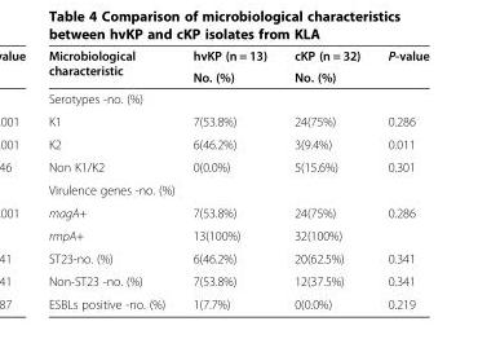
<table><thead><tr><td rowspan="2">Microbiological characteristic</td><td rowspan="2">hvKP (n = 13) No. (%)</td><td rowspan="2">cKP (n = 32) No. (%)</td><td rowspan="2">P-value</td></tr><tr></tr></thead><tbody><tr><td colspan="4">Serotypes -no. (%)</td></tr><tr><td>K1</td><td>7(53.8%)</td><td>24(75%)</td><td>0.286</td></tr><tr><td>K2</td><td>6(46.2%)</td><td>3(9.4%)</td><td>0.011</td></tr><tr><td>Non K1/K2</td><td>0(0.0%)</td><td>5(15.6%)</td><td>0.301</td></tr><tr><td colspan="4">Virulence genes -no. (%)</td></tr><tr><td>magA+</td><td>7(53.8%)</td><td>24(75%)</td><td>0.286</td></tr><tr><td>rmpA+</td><td>13(100%)</td><td>32(100%)</td><td></td></tr><tr><td>ST23-no. (%)</td><td>6(46.2%)</td><td>20(62.5%)</td><td>0.341</td></tr><tr><td>Non-ST23 -no. (%)</td><td>7(53.8%)</td><td>12(37.5%)</td><td>0.341</td></tr><tr><td>ESBLs positive -no. (%)</td><td>1(7.7%)</td><td>0(0.0%)</td><td>0.219</td></tr></tbody></table>